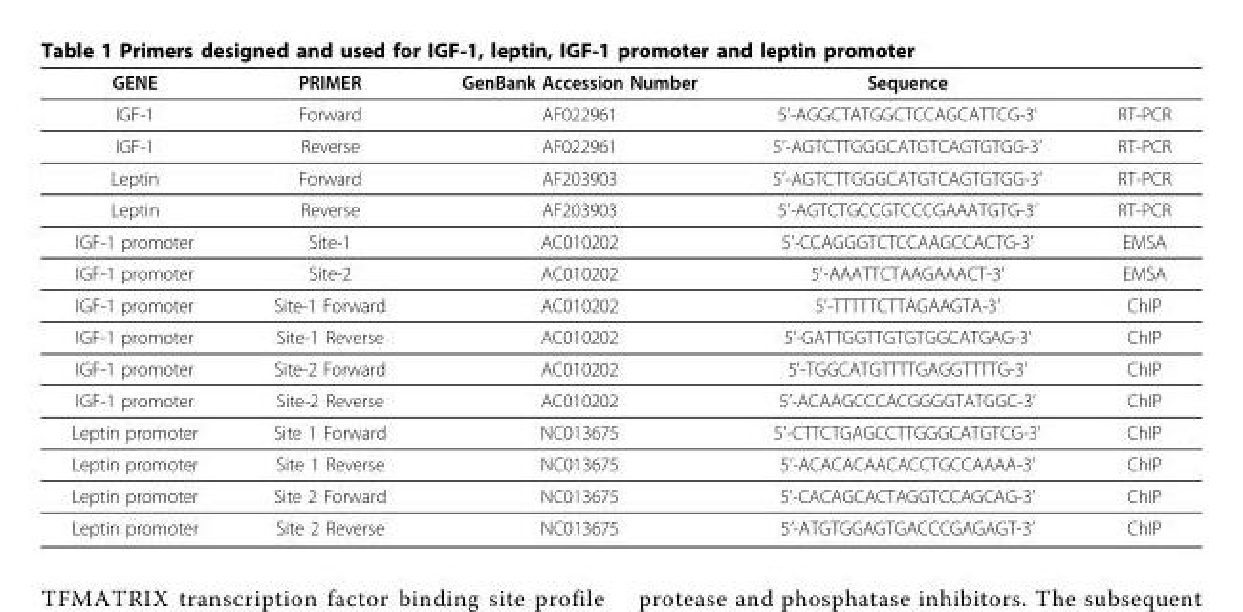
<table><thead><tr><td>GENE</td><td>PRIMER</td><td>GenBank Accession Number</td><td>Sequence</td><td></td></tr></thead><tbody><tr><td>IGF-1</td><td>Forward</td><td>AF022961</td><td>5’-AGGCTATGGCTCCAGCATTCG-3’</td><td>RT-PCR</td></tr><tr><td>IGF-1</td><td>Reverse</td><td>AF022961</td><td>5’-AGTCTTGGGCATGTCAGTGTGG-3’</td><td>RT-PCR</td></tr><tr><td>Leptin</td><td>Forward</td><td>AF203903</td><td>5’-AGTCTTGGGCATGTCAGTGTGG-3’</td><td>RT-PCR</td></tr><tr><td>Leptin</td><td>Reverse</td><td>AF203903</td><td>5’-AGTCTGCCGTCCCGAAATGTG-3’</td><td>RT-PCR</td></tr><tr><td>IGF-1 promoter</td><td>Site-1</td><td>AC010202</td><td>5’-CCAGGGTCTCCAAGCCACTG-3’</td><td>EMSA</td></tr><tr><td>IGF-1 promoter</td><td>Site-2</td><td>AC010202</td><td>5’-AAATTCTAAGAAACT-3’</td><td>EMSA</td></tr><tr><td>IGF-1 promoter</td><td>Site-1 Forward</td><td>AC010202</td><td>5’-TTTTTCTTAGAAGTA-3’</td><td>ChIP</td></tr><tr><td>IGF-1 promoter</td><td>Site-1 Reverse</td><td>AC010202</td><td>5’-GATTGGTTGTGTGGCATGAG-3’</td><td>ChIP</td></tr><tr><td>IGF-1 promoter</td><td>Site-2 Forward</td><td>AC010202</td><td>5’-TGGCATGTTTTGAGGTTTTG-3’</td><td>ChIP</td></tr><tr><td>IGF-1 promoter</td><td>Site-2 Reverse</td><td>AC010202</td><td>5’-ACAAGCCCACGGGGTATGGC-3’</td><td>ChIP</td></tr><tr><td>Leptin promoter</td><td>Site 1 Forward</td><td>NC013675</td><td>5’-CTTCTGAGCCTTGGGCATGTCG-3’</td><td>ChIP</td></tr><tr><td>Leptin promoter</td><td>Site 1 Reverse</td><td>NC013675</td><td>5’-ACACACAACACCTGCCAAAA-3’</td><td>ChIP</td></tr><tr><td>Leptin promoter</td><td>Site 2 Forward</td><td>NC013675</td><td>5’-CACAGCACTAGGTCCAGCAG-3’</td><td>ChIP</td></tr><tr><td>Leptin promoter</td><td>Site 2 Reverse</td><td>NC013675</td><td>5’-ATGTGGAGTGACCCGAGAGT-3’</td><td>ChIP</td></tr></tbody></table>